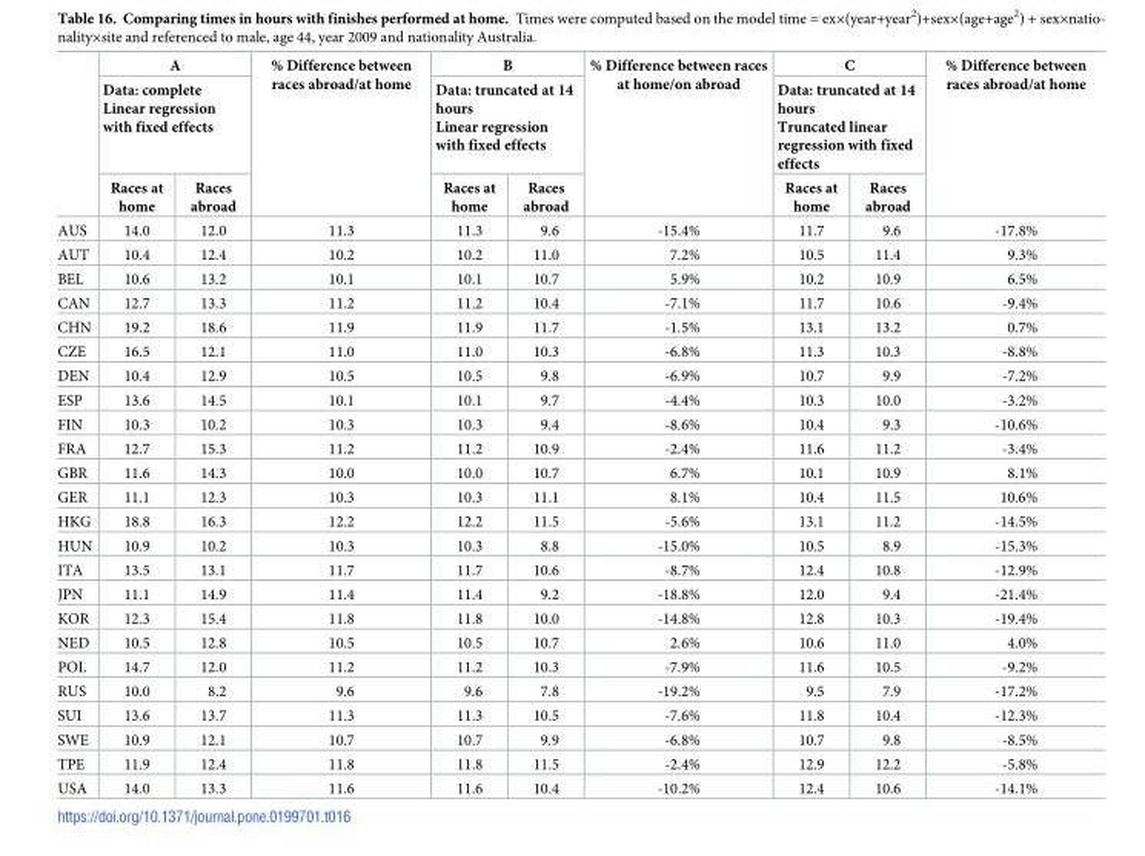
<table><thead><tr><td rowspan="3"></td><td rowspan="2" colspan="2">A Data: complete Linear regression with fixed effects</td><td rowspan="3">% Difference between races abroad/at home</td><td rowspan="2" colspan="2">B Data: truncated at 14 hours Linear regression with fixed effects</td><td rowspan="3">% Difference between races at home/on abroad</td><td rowspan="2" colspan="2">C Data: truncated at 14 hours Truncated linear regression with fixed effects</td><td rowspan="3">% Difference between races abroad/at home</td></tr><tr></tr><tr><td>Races at home</td><td>Races abroad</td><td>Races at home</td><td>Races abroad</td><td>Races at home</td><td>Races abroad</td></tr></thead><tbody><tr><td>AUS</td><td>14.0</td><td>12.0</td><td>11.3</td><td>11.3</td><td>9.6</td><td>-15.4%</td><td>11.7</td><td>9.6</td><td>-17.8%</td></tr><tr><td>AUT</td><td>10.4</td><td>12.4</td><td>10.2</td><td>10.2</td><td>11.0</td><td>7.2%</td><td>10.5</td><td>11.4</td><td>9.3%</td></tr><tr><td>BEL</td><td>10.6</td><td>13.2</td><td>10.1</td><td>10.1</td><td>10.7</td><td>5.9%</td><td>10.2</td><td>10.9</td><td>6.5%</td></tr><tr><td>CAN</td><td>12.7</td><td>13.3</td><td>11.2</td><td>11.2</td><td>10.4</td><td>-7.1%</td><td>11.7</td><td>10.6</td><td>-9.4%</td></tr><tr><td>CHN</td><td>19.2</td><td>18.6</td><td>11.9</td><td>11.9</td><td>11.7</td><td>-1.5%</td><td>13.1</td><td>13.2</td><td>0.7%</td></tr><tr><td>CZE</td><td>16.5</td><td>12.1</td><td>11.0</td><td>11.0</td><td>10.3</td><td>-6.8%</td><td>11.3</td><td>10.3</td><td>-8.8%</td></tr><tr><td>DEN</td><td>10.4</td><td>12.9</td><td>10.5</td><td>10.5</td><td>9.8</td><td>-6.9%</td><td>10.7</td><td>9.9</td><td>-7.2%</td></tr><tr><td>ESP</td><td>13.6</td><td>14.5</td><td>10.1</td><td>10.1</td><td>9.7</td><td>-4.4%</td><td>10.3</td><td>10.0</td><td>-3.2%</td></tr><tr><td>FIN</td><td>10.3</td><td>10.2</td><td>10.3</td><td>10.3</td><td>9.4</td><td>-8.6%</td><td>10.4</td><td>9.3</td><td>-10.6%</td></tr><tr><td>FRA</td><td>12.7</td><td>15.3</td><td>11.2</td><td>11.2</td><td>10.9</td><td>-2.4%</td><td>11.6</td><td>11.2</td><td>-3.4%</td></tr><tr><td>GBR</td><td>11.6</td><td>14.3</td><td>10.0</td><td>10.0</td><td>10.7</td><td>6.7%</td><td>10.1</td><td>10.9</td><td>8.1%</td></tr><tr><td>GER</td><td>11.1</td><td>12.3</td><td>10.3</td><td>10.3</td><td>11.1</td><td>8.1%</td><td>10.4</td><td>11.5</td><td>10.6%</td></tr><tr><td>HKG</td><td>18.8</td><td>16.3</td><td>12.2</td><td>12.2</td><td>11.5</td><td>-5.6%</td><td>13.1</td><td>11.2</td><td>-14.5%</td></tr><tr><td>HUN</td><td>10.9</td><td>10.2</td><td>10.3</td><td>10.3</td><td>8.8</td><td>-15.0%</td><td>10.5</td><td>8.9</td><td>-15.3%</td></tr><tr><td>ITA</td><td>13.5</td><td>13.1</td><td>11.7</td><td>11.7</td><td>10.6</td><td>-8.7%</td><td>12.4</td><td>10.8</td><td>-12.9%</td></tr><tr><td>JPN</td><td>11.1</td><td>14.9</td><td>11.4</td><td>11.4</td><td>9.2</td><td>-18.8%</td><td>12.0</td><td>9.4</td><td>-21.4%</td></tr><tr><td>KOR</td><td>12.3</td><td>15.4</td><td>11.8</td><td>11.8</td><td>10.0</td><td>-14.8%</td><td>12.8</td><td>10.3</td><td>-19.4%</td></tr><tr><td>NED</td><td>10.5</td><td>12.8</td><td>10.5</td><td>10.5</td><td>10.7</td><td>2.6%</td><td>10.6</td><td>11.0</td><td>4.0%</td></tr><tr><td>POL</td><td>14.7</td><td>12.0</td><td>11.2</td><td>11.2</td><td>10.3</td><td>-7.9%</td><td>11.6</td><td>10.5</td><td>-9.2%</td></tr><tr><td>RUS</td><td>10.0</td><td>8.2</td><td>9.6</td><td>9.6</td><td>7.8</td><td>-19.2%</td><td>9.5</td><td>7.9</td><td>-17.2%</td></tr><tr><td>SUI</td><td>13.6</td><td>13.7</td><td>11.3</td><td>11.3</td><td>10.5</td><td>-7.6%</td><td>11.8</td><td>10.4</td><td>-12.3%</td></tr><tr><td>SWE</td><td>10.9</td><td>12.1</td><td>10.7</td><td>10.7</td><td>9.9</td><td>-6.8%</td><td>10.7</td><td>9.8</td><td>-8.5%</td></tr><tr><td>TPE</td><td>11.9</td><td>12.4</td><td>11.8</td><td>11.8</td><td>11.5</td><td>-2.4%</td><td>12.9</td><td>12.2</td><td>-5.8%</td></tr><tr><td>USA</td><td>14.0</td><td>13.3</td><td>11.6</td><td>11.6</td><td>10.4</td><td>-10.2%</td><td>12.4</td><td>10.6</td><td>-14.1%</td></tr></tbody></table>